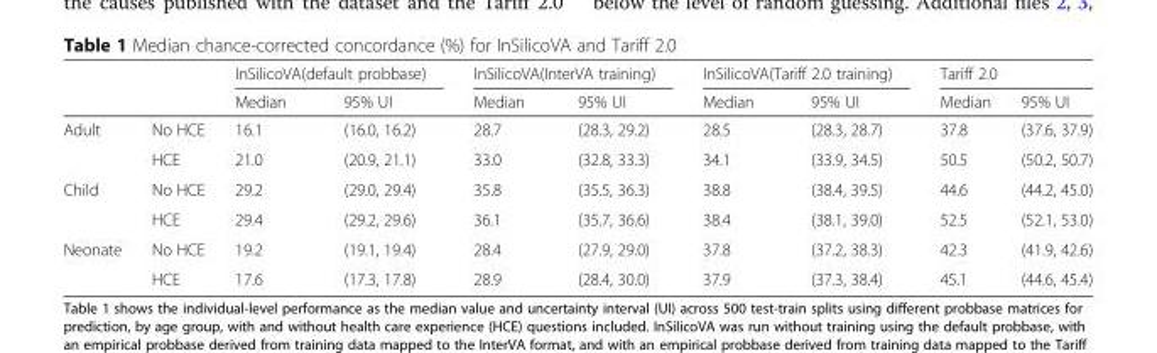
<table><thead><tr><td rowspan="2"></td><td rowspan="2"></td><td colspan="2">InSilicoVA(default probbase)</td><td colspan="2">InSilicoVA(InterVA training)</td><td colspan="2">InSilicoVA(Tariff 2.0 training)</td><td colspan="2">Tariff 2.0</td></tr><tr><td>Median</td><td>95% UI</td><td>Median</td><td>95% UI</td><td>Median</td><td>95% UI</td><td>Median</td><td>95% UI</td></tr></thead><tbody><tr><td rowspan="2">Adult</td><td>No HCE</td><td>16.1</td><td>(16.0, 16.2)</td><td>28.7</td><td>(28.3, 29.2)</td><td>28.5</td><td>(28.3, 28.7)</td><td>37.8</td><td>(37.6, 37.9)</td></tr><tr><td>HCE</td><td>21.0</td><td>(20.9, 21.1)</td><td>33.0</td><td>(32.8, 33.3)</td><td>34.1</td><td>(33.9, 34.5)</td><td>50.5</td><td>(50.2, 50.7)</td></tr><tr><td rowspan="2">Child</td><td>No HCE</td><td>29.2</td><td>(29.0, 29.4)</td><td>35.8</td><td>(35.5, 36.3)</td><td>38.8</td><td>(38.4, 39.5)</td><td>44.6</td><td>(44.2, 45.0)</td></tr><tr><td>HCE</td><td>29.4</td><td>(29.2, 29.6)</td><td>36.1</td><td>(35.7, 36.6)</td><td>38.4</td><td>(38.1, 39.0)</td><td>52.5</td><td>(52.1, 53.0)</td></tr><tr><td rowspan="2">Neonate</td><td>No HCE</td><td>19.2</td><td>(19.1, 19.4)</td><td>28.4</td><td>(27.9, 29.0)</td><td>37.8</td><td>(37.2, 38.3)</td><td>42.3</td><td>(41.9, 42.6)</td></tr><tr><td>HCE</td><td>17.6</td><td>(17.3, 17.8)</td><td>28.9</td><td>(28.4, 30.0)</td><td>37.9</td><td>(37.3, 38.4)</td><td>45.1</td><td>(44.6, 45.4)</td></tr></tbody></table>